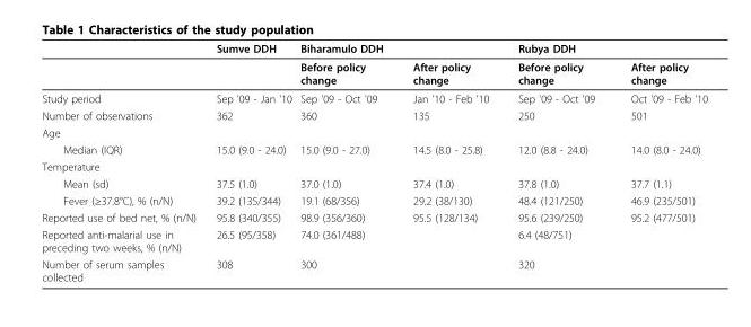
<table><thead><tr><td></td><td>Sumve DDH</td><td>Biharamulo DDH</td><td></td><td>Rubya DDH</td><td></td></tr></thead><tbody><tr><td></td><td></td><td>Before policy change</td><td>After policy change</td><td>Before policy change</td><td>After policy change</td></tr><tr><td>Study period</td><td>Sep &#x27;09 - Jan &#x27;10</td><td>Sep &#x27;09 - Oct &#x27;09</td><td>Jan &#x27;10 - Feb &#x27;10</td><td>Sep &#x27;09 - Oct &#x27;09</td><td>Oct &#x27;09 - Feb &#x27;10</td></tr><tr><td>Number of observations</td><td>362</td><td>360</td><td>135</td><td>250</td><td>501</td></tr><tr><td colspan="6">Age</td></tr><tr><td>Median (IQR)</td><td>15.0 (9.0 - 24.0)</td><td>15.0 (9.0 - 27.0)</td><td>14.5 (8.0 - 25.8)</td><td>12.0 (8.8 - 24.0)</td><td>14.0 (8.0 - 24.0)</td></tr><tr><td colspan="6">Temperature</td></tr><tr><td>Mean (sd)</td><td>37.5 (1.0)</td><td>37.0 (1.0)</td><td>37.4 (1.0)</td><td>37.8 (1.0)</td><td>37.7 (1.1)</td></tr><tr><td>Fever (≥37.8°C), % (n/N)</td><td>39.2 (135/344)</td><td>19.1 (68/356)</td><td>29.2 (38/130)</td><td>48.4 (121/250)</td><td>46.9 (235/501)</td></tr><tr><td>Reported use of bed net, % (n/N)</td><td>95.8 (340/355)</td><td>98.9 (356/360)</td><td>95.5 (128/134)</td><td>95.6 (239/250)</td><td>95.2 (477/501)</td></tr><tr><td>Reported anti-malarial use in preceding two weeks, % (n/N)</td><td>26.5 (95/358)</td><td>74.0 (361/488)</td><td></td><td>6.4 (48/751)</td><td></td></tr><tr><td>Number of serum samples collected</td><td>308</td><td>300</td><td></td><td>320</td><td></td></tr></tbody></table>